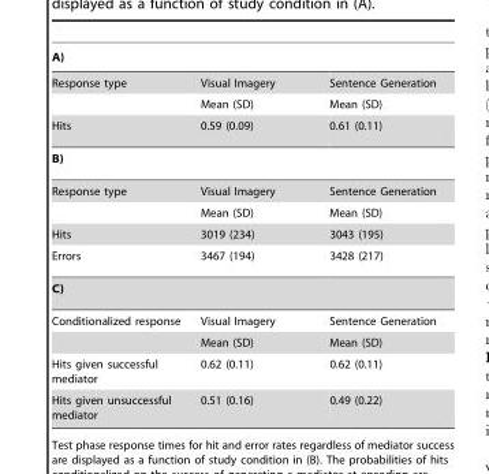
<table><thead><tr><td>A)</td><td></td><td></td></tr></thead><tbody><tr><td rowspan="2">Response type</td><td>Visual Imagery</td><td>Sentence Generation</td></tr><tr><td>Mean (SD)</td><td>Mean (SD)</td></tr><tr><td>Hits</td><td>0.59 (0.09)</td><td>0.61 (0.11)</td></tr><tr><td colspan="3">B)</td></tr><tr><td rowspan="2">Response type</td><td>Visual Imagery</td><td>Sentence Generation</td></tr><tr><td>Mean (SD)</td><td>Mean (SD)</td></tr><tr><td>Hits</td><td>3019 (234)</td><td>3043 (195)</td></tr><tr><td>Errors</td><td>3467 (194)</td><td>3428 (217)</td></tr><tr><td colspan="3">C)</td></tr><tr><td rowspan="2">Conditionalized response</td><td>Visual Imagery</td><td>Sentence Generation</td></tr><tr><td>Mean (SD)</td><td>Mean (SD)</td></tr><tr><td>Hits given successful mediator</td><td>0.62 (0.11)</td><td>0.62 (0.11)</td></tr><tr><td>Hits given unsuccessful mediator</td><td>0.51 (0.16)</td><td>0.49 (0.22)</td></tr></tbody></table>